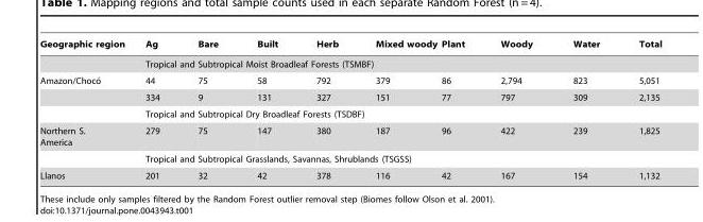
<table><thead><tr><td>Geographic region</td><td>Ag</td><td>Bare</td><td>Built</td><td>Herb</td><td>Mixed woody</td><td>Plant</td><td>Woody</td><td>Water</td><td>Total</td></tr></thead><tbody><tr><td></td><td colspan="9">Tropical and Subtropical Moist Broadleaf Forests (TSMBF)</td></tr><tr><td rowspan="3">Amazon/Choco´</td><td>44</td><td>75</td><td>58</td><td>792</td><td>379</td><td>86</td><td>2,794</td><td>823</td><td>5,051</td></tr><tr><td>334</td><td>9</td><td>131</td><td>327</td><td>151</td><td>77</td><td>797</td><td>309</td><td>2,135</td></tr><tr><td colspan="9">Tropical and Subtropical Dry Broadleaf Forests (TSDBF)</td></tr><tr><td rowspan="2">Northern S. America</td><td>279</td><td>75</td><td>147</td><td>380</td><td>187</td><td>96</td><td>422</td><td>239</td><td>1,825</td></tr><tr><td colspan="9">Tropical and Subtropical Grasslands, Savannas, Shrublands (TSGSS)</td></tr><tr><td>Llanos</td><td>201</td><td>32</td><td>42</td><td>378</td><td>116</td><td>42</td><td>167</td><td>154</td><td>1,132</td></tr></tbody></table>